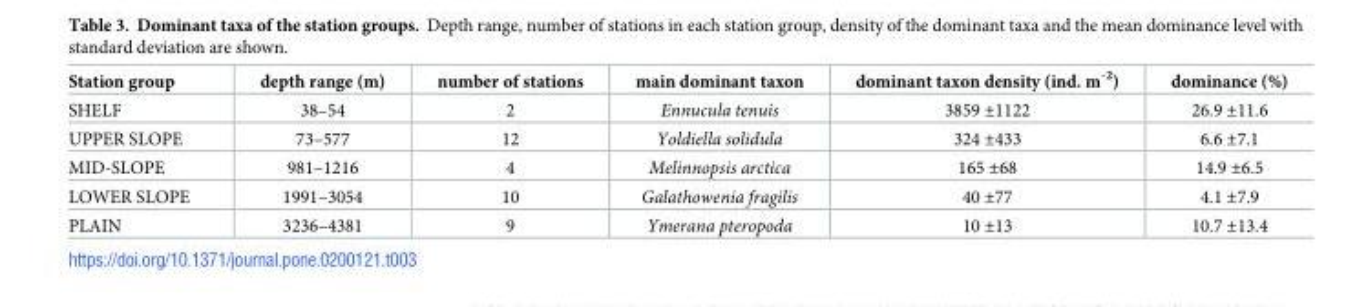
<table><thead><tr><td>Station group</td><td>depth range (m)</td><td>number of stations</td><td>main dominant taxon</td><td>dominant taxon density (ind. m<sup>-2</sup>)</td><td>dominance (%)</td></tr></thead><tbody><tr><td>SHELF</td><td>38–54</td><td>2</td><td>Ennucula tenuis</td><td>3859 ±1122</td><td>26.9 ±11.6</td></tr><tr><td>UPPER SLOPE</td><td>73–577</td><td>12</td><td>Yoldiella solidula</td><td>324 ±433</td><td>6.6 ±7.1</td></tr><tr><td>MID-SLOPE</td><td>981–1216</td><td>4</td><td>Melinnopsis arctica</td><td>165 ±68</td><td>14.9 ±6.5</td></tr><tr><td>LOWER SLOPE</td><td>1991–3054</td><td>10</td><td>Galathowenia fragilis</td><td>40 ±77</td><td>4.1 ±7.9</td></tr><tr><td>PLAIN</td><td>3236–4381</td><td>9</td><td>Ymerana pteropoda</td><td>10 ±13</td><td>10.7 ±13.4</td></tr></tbody></table>